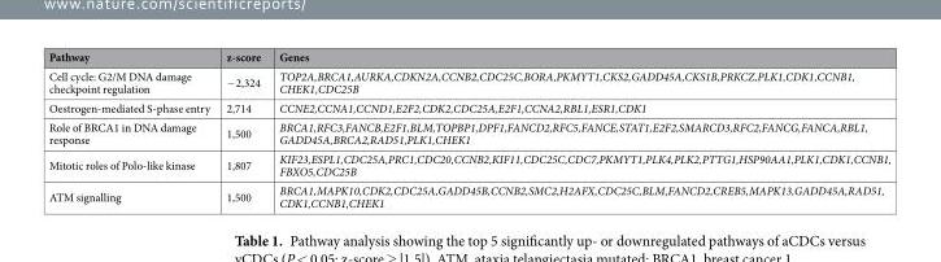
<table><thead><tr><td>Pathway</td><td>z-score</td><td>Genes</td></tr></thead><tbody><tr><td>Cell cycle: G2/M DNA damage checkpoint regulation</td><td>−2,324</td><td>TOP2A,BRCA1,AURKA,CDKN2A,CCNB2,CDC25C,BORA,PKMYT1,CKS2,GADD45A,CKS1B,PRKCZ,PLK1,CDK1,CCNB1, CHEK1,CDC25B</td></tr><tr><td>Oestrogen-mediated S-phase entry</td><td>2,714</td><td>CCNE2,CCNA1,CCND1,E2F2,CDK2,CDC25A,E2F1,CCNA2,RBL1,ESR1,CDK1</td></tr><tr><td>Role of BRCA1 in DNA damage response</td><td>1,500</td><td>BRCA1,RFC3,FANCB,E2F1,BLM,TOPBP1,DPF1,FANCD2,RFC5,FANCE,STAT1,E2F2,SMARCD3,RFC2,FANCG,FANCA,RBL1, GADD45A,BRCA2,RAD51,PLK1,CHEK1</td></tr><tr><td>Mitotic roles of Polo-like kinase</td><td>1,807</td><td>KIF23,ESPL1,CDC25A,PRC1,CDC20,CCNB2,KIF11,CDC25C,CDC7,PKMYT1,PLK4,PLK2,PTTG1,HSP90AA1,PLK1,CDK1,CCNB1, FBXO5,CDC25B</td></tr><tr><td>ATM signalling</td><td>1,500</td><td>BRCA1,MAPK10,CDK2,CDC25A,GADD45B,CCNB2,SMC2,H2AFX,CDC25C,BLM,FANCD2,CREB5,MAPK13,GADD45A,RAD51, CDK1,CCNB1,CHEK1</td></tr></tbody></table>